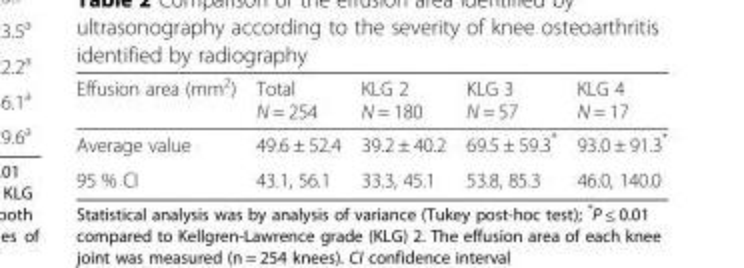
<table><thead><tr><td>Effusion area (mm<sup>2</sup>)</td><td>Total N = 254</td><td>KLG 2 N = 180</td><td>KLG 3 N = 57</td><td>KLG 4 N = 17</td></tr></thead><tbody><tr><td>Average value</td><td>49.6 ± 52.4</td><td>39.2 ± 40.2</td><td>69.5 ± 59.3*</td><td>93.0 ± 91.3*</td></tr><tr><td>95 % CI</td><td>43.1, 56.1</td><td>33.3, 45.1</td><td>53.8, 85.3</td><td>46.0, 140.0</td></tr></tbody></table>